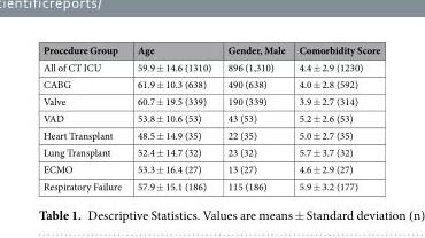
<table><thead><tr><td>Procedure Group</td><td>Age</td><td>Gender, Male</td><td>Comorbidity Score</td></tr></thead><tbody><tr><td>All of CT ICU</td><td>59.9 ± 14.6 (1310)</td><td>896 (1,310)</td><td>4.4 ± 2.9 (1230)</td></tr><tr><td>CABG</td><td>61.9 ± 10.3 (638)</td><td>490 (638)</td><td>4.0 ± 2.8 (592)</td></tr><tr><td>Valve</td><td>60.7 ± 19.5 (339)</td><td>190 (339)</td><td>3.9 ± 2.7 (314)</td></tr><tr><td>VAD</td><td>53.8 ± 10.6 (53)</td><td>43 (53)</td><td>5.2 ± 2.6 (53)</td></tr><tr><td>Heart Transplant</td><td>48.5 ± 14.9 (35)</td><td>22 (35)</td><td>5.0 ± 2.7 (35)</td></tr><tr><td>Lung Transplant</td><td>52.4 ± 14.7 (32)</td><td>23 (32)</td><td>5.7 ± 3.7 (32)</td></tr><tr><td>ECMO</td><td>53.3 ± 16.4 (27)</td><td>13 (27)</td><td>4.6 ± 2.9 (27)</td></tr><tr><td>Respiratory Failure</td><td>57.9 ± 15.1 (186)</td><td>115 (186)</td><td>5.9 ± 3.2 (177)</td></tr></tbody></table>